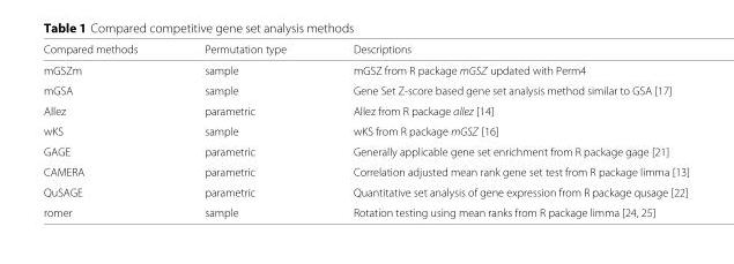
<table><thead><tr><td>Compared methods</td><td>Permutation type</td><td>Descriptions</td></tr></thead><tbody><tr><td>mGSZm</td><td>sample</td><td>mGSZ from R package mGSZ updated with Perm4</td></tr><tr><td>mGSA</td><td>sample</td><td>Gene Set Z-score based gene set analysis method similar to GSA [17]</td></tr><tr><td>Allez</td><td>parametric</td><td>Allez from R package allez [14]</td></tr><tr><td>wKS</td><td>sample</td><td>wKS from R package mGSZ [16]</td></tr><tr><td>GAGE</td><td>parametric</td><td>Generally applicable gene set enrichment from R package gage [21]</td></tr><tr><td>CAMERA</td><td>parametric</td><td>Correlation adjusted mean rank gene set test from R package limma [13]</td></tr><tr><td>QuSAGE</td><td>parametric</td><td>Quantitative set analysis of gene expression from R package qusage [22]</td></tr><tr><td>romer</td><td>sample</td><td>Rotation testing using mean ranks from R package limma [24, 25]</td></tr></tbody></table>